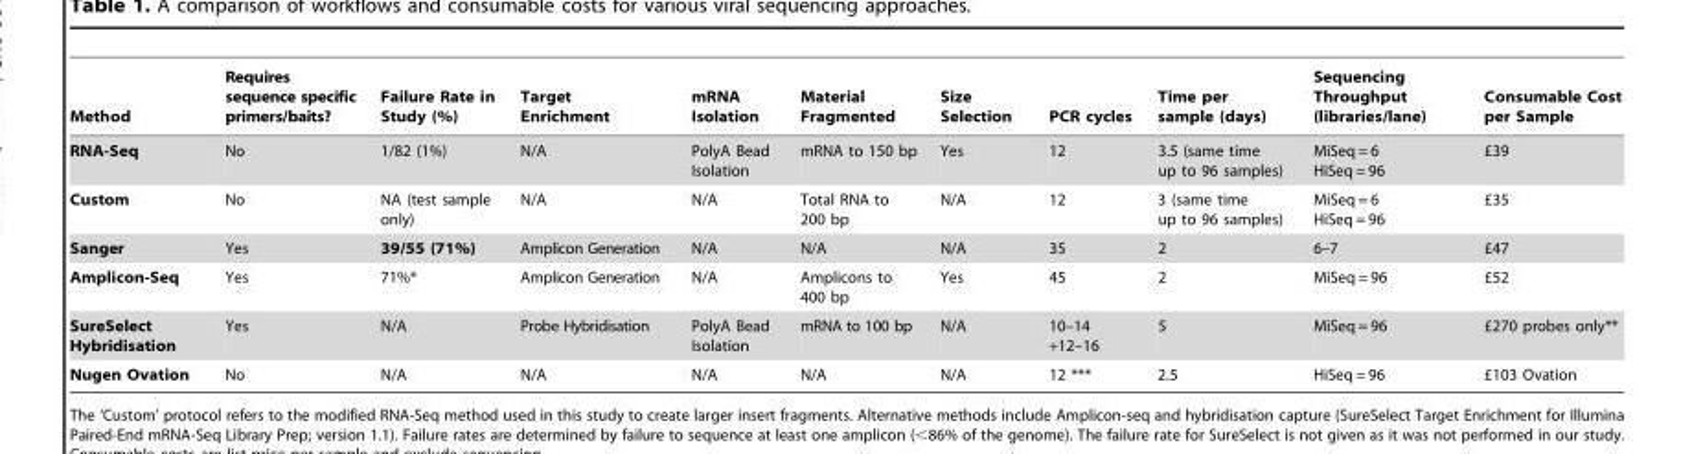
<table><thead><tr><td>Method</td><td>Requires sequence specific primers/baits?</td><td>Failure Rate in Study (%)</td><td>Target Enrichment</td><td>mRNA Isolation</td><td>Material Fragmented</td><td>Size Selection</td><td>PCR cycles</td><td>Time per sample (days)</td><td>Sequencing Throughput (libraries/lane)</td><td>Consumable Cost per Sample</td></tr></thead><tbody><tr><td>RNA-Seq</td><td>No</td><td>1/82 (1%)</td><td>N/A</td><td>PolyA Bead Isolation</td><td>mRNA to 150 bp</td><td>Yes</td><td>12</td><td>3.5 (same time up to 96 samples)</td><td>MiSeq = 6 HiSeq = 96</td><td>£39</td></tr><tr><td>Custom</td><td>No</td><td>NA (test sample only)</td><td>N/A</td><td>N/A</td><td>Total RNA to 200 bp</td><td>N/A</td><td>12</td><td>3 (same time up to 96 samples)</td><td>MiSeq = 6 HiSeq = 96</td><td>£35</td></tr><tr><td>Sanger</td><td>Yes</td><td>39/55 (71%)</td><td>Amplicon Generation</td><td>N/A</td><td>N/A</td><td>N/A</td><td>35</td><td>2</td><td>6–7</td><td>£47</td></tr><tr><td>Amplicon-Seq</td><td>Yes</td><td>71%*</td><td>Amplicon Generation</td><td>N/A</td><td>Amplicons to 400 bp</td><td>Yes</td><td>45</td><td>2</td><td>MiSeq = 96</td><td>£52</td></tr><tr><td>SureSelect Hybridisation</td><td>Yes</td><td>N/A</td><td>Probe Hybridisation</td><td>PolyA Bead Isolation</td><td>mRNA to 100 bp</td><td>N/A</td><td>10–14 +12–16</td><td>5</td><td>MiSeq = 96</td><td>£270 probes only**</td></tr><tr><td>Nugen Ovation</td><td>No</td><td>N/A</td><td>N/A</td><td>N/A</td><td>N/A</td><td>N/A</td><td>12 ***</td><td>2.5</td><td>HiSeq = 96</td><td>£103 Ovation</td></tr></tbody></table>